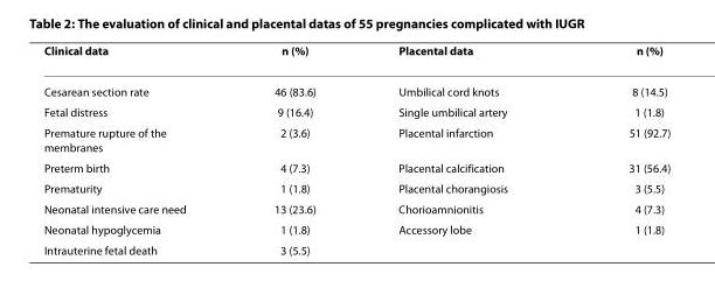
<table><thead><tr><td>Clinical data</td><td>n (%)</td><td>Placental data</td><td>n (%)</td></tr></thead><tbody><tr><td>Cesarean section rate</td><td>46 (83.6)</td><td>Umbilical cord knots</td><td>8 (14.5)</td></tr><tr><td>Fetal distress</td><td>9 (16.4)</td><td>Single umbilical artery</td><td>1 (1.8)</td></tr><tr><td>Premature rupture of the membranes</td><td>2 (3.6)</td><td>Placental infarction</td><td>51 (92.7)</td></tr><tr><td>Preterm birth</td><td>4 (7.3)</td><td>Placental calcification</td><td>31 (56.4)</td></tr><tr><td>Prematurity</td><td>1 (1.8)</td><td>Placental chorangiosis</td><td>3 (5.5)</td></tr><tr><td>Neonatal intensive care need</td><td>13 (23.6)</td><td>Chorioamnionitis</td><td>4 (7.3)</td></tr><tr><td>Neonatal hypoglycemia</td><td>1 (1.8)</td><td>Accessory lobe</td><td>1 (1.8)</td></tr><tr><td>Intrauterine fetal death</td><td>3 (5.5)</td><td></td><td></td></tr></tbody></table>